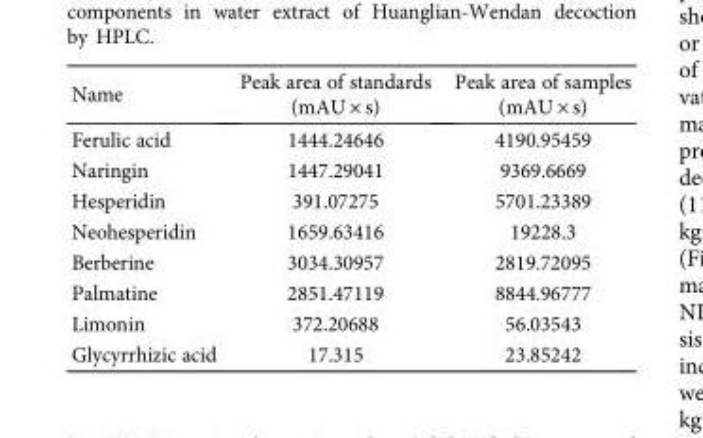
<table><thead><tr><td>Name</td><td>Peak area of standards (mAU × s)</td><td>Peak area of samples (mAU × s)</td></tr></thead><tbody><tr><td>Ferulic acid</td><td>1444.24646</td><td>4190.95459</td></tr><tr><td>Naringin</td><td>1447.29041</td><td>9369.6669</td></tr><tr><td>Hesperidin</td><td>391.07275</td><td>5701.23389</td></tr><tr><td>Neohesperidin</td><td>1659.63416</td><td>19228.3</td></tr><tr><td>Berberine</td><td>3034.30957</td><td>2819.72095</td></tr><tr><td>Palmatine</td><td>2851.47119</td><td>8844.96777</td></tr><tr><td>Limonin</td><td>372.20688</td><td>56.03543</td></tr><tr><td>Glycyrrhizic acid</td><td>17.315</td><td>23.85242</td></tr></tbody></table>